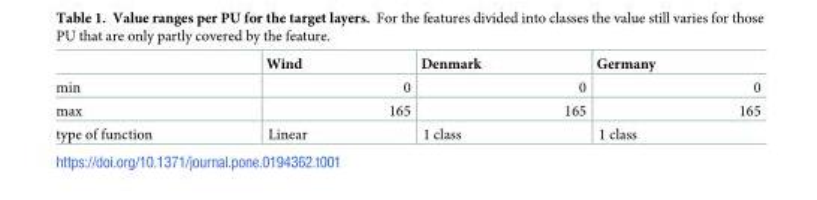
<table><thead><tr><td></td><td>Wind</td><td>Denmark</td><td>Germany</td></tr></thead><tbody><tr><td>min</td><td>0</td><td>0</td><td>0</td></tr><tr><td>max</td><td>165</td><td>165</td><td>165</td></tr><tr><td>type of function</td><td>Linear</td><td>1 class</td><td>1 class</td></tr></tbody></table>